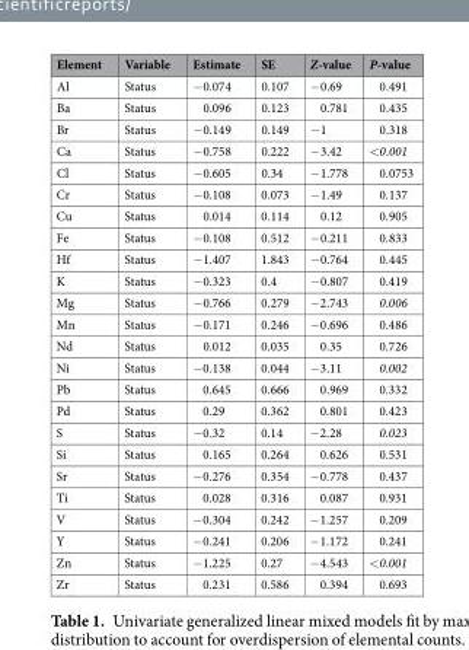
<table><thead><tr><td>Element</td><td>Variable</td><td>Estimate</td><td>SE</td><td>Z-value</td><td>P-value</td></tr></thead><tbody><tr><td>Al</td><td>Status</td><td>−0.074</td><td>0.107</td><td>−0.69</td><td>0.491</td></tr><tr><td>Ba</td><td>Status</td><td>0.096</td><td>0.123</td><td>0.781</td><td>0.435</td></tr><tr><td>Br</td><td>Status</td><td>−0.149</td><td>0.149</td><td>−1</td><td>0.318</td></tr><tr><td>Ca</td><td>Status</td><td>−0.758</td><td>0.222</td><td>−3.42</td><td>&lt;0.001</td></tr><tr><td>Cl</td><td>Status</td><td>−0.605</td><td>0.34</td><td>−1.778</td><td>0.0753</td></tr><tr><td>Cr</td><td>Status</td><td>−0.108</td><td>0.073</td><td>−1.49</td><td>0.137</td></tr><tr><td>Cu</td><td>Status</td><td>0.014</td><td>0.114</td><td>0.12</td><td>0.905</td></tr><tr><td>Fe</td><td>Status</td><td>−0.108</td><td>0.512</td><td>−0.211</td><td>0.833</td></tr><tr><td>Hf</td><td>Status</td><td>−1.407</td><td>1.843</td><td>−0.764</td><td>0.445</td></tr><tr><td>K</td><td>Status</td><td>−0.323</td><td>0.4</td><td>−0.807</td><td>0.419</td></tr><tr><td>Mg</td><td>Status</td><td>−0.766</td><td>0.279</td><td>−2.743</td><td>0.006</td></tr><tr><td>Mn</td><td>Status</td><td>−0.171</td><td>0.246</td><td>−0.696</td><td>0.486</td></tr><tr><td>Nd</td><td>Status</td><td>0.012</td><td>0.035</td><td>0.35</td><td>0.726</td></tr><tr><td>Ni</td><td>Status</td><td>−0.138</td><td>0.044</td><td>−3.11</td><td>0.002</td></tr><tr><td>Pb</td><td>Status</td><td>0.645</td><td>0.666</td><td>0.969</td><td>0.332</td></tr><tr><td>Pd</td><td>Status</td><td>0.29</td><td>0.362</td><td>0.801</td><td>0.423</td></tr><tr><td>S</td><td>Status</td><td>−0.32</td><td>0.14</td><td>−2.28</td><td>0.023</td></tr><tr><td>Si</td><td>Status</td><td>0.165</td><td>0.264</td><td>0.626</td><td>0.531</td></tr><tr><td>Sr</td><td>Status</td><td>−0.276</td><td>0.354</td><td>−0.778</td><td>0.437</td></tr><tr><td>Ti</td><td>Status</td><td>0.028</td><td>0.316</td><td>0.087</td><td>0.931</td></tr><tr><td>V</td><td>Status</td><td>−0.304</td><td>0.242</td><td>−1.257</td><td>0.209</td></tr><tr><td>Y</td><td>Status</td><td>−0.241</td><td>0.206</td><td>−1.172</td><td>0.241</td></tr><tr><td>Zn</td><td>Status</td><td>−1.225</td><td>0.27</td><td>−4.543</td><td>&lt;0.001</td></tr><tr><td>Zr</td><td>Status</td><td>0.231</td><td>0.586</td><td>0.394</td><td>0.693</td></tr></tbody></table>